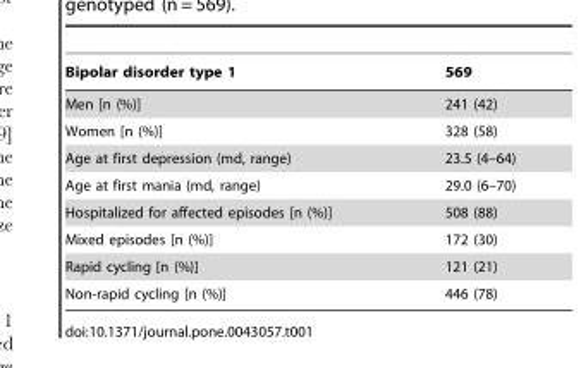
<table><thead><tr><td>Bipolar disorder type 1</td><td>569</td></tr></thead><tbody><tr><td>Men [n (%)]</td><td>241 (42)</td></tr><tr><td>Women [n (%)]</td><td>328 (58)</td></tr><tr><td>Age at first depression (md, range)</td><td>23.5 (4–64)</td></tr><tr><td>Age at first mania (md, range)</td><td>29.0 (6–70)</td></tr><tr><td>Hospitalized for affected episodes [n (%)]</td><td>508 (88)</td></tr><tr><td>Mixed episodes [n (%)]</td><td>172 (30)</td></tr><tr><td>Rapid cycling [n (%)]</td><td>121 (21)</td></tr><tr><td>Non-rapid cycling [n (%)]</td><td>446 (78)</td></tr></tbody></table>